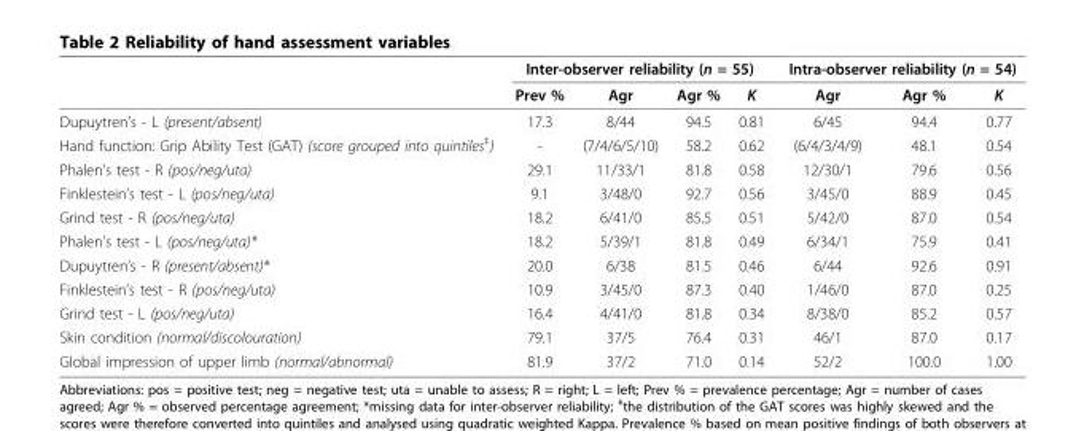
<table><thead><tr><td rowspan="2"></td><td colspan="4">Inter-observer reliability (n = 55)</td><td colspan="3">Intra-observer reliability (n = 54)</td></tr><tr><td>Prev %</td><td>Agr</td><td>Agr %</td><td>K</td><td>Agr</td><td>Agr %</td><td>K</td></tr></thead><tbody><tr><td>Dupuytren’s - L (present/absent)</td><td>17.3</td><td>8/44</td><td>94.5</td><td>0.81</td><td>6/45</td><td>94.4</td><td>0.77</td></tr><tr><td>Hand function: Grip Ability Test (GAT) (score grouped into quintiles<sup>‡</sup>)</td><td>-</td><td>(7/4/6/5/10)</td><td>58.2</td><td>0.62</td><td>(6/4/3/4/9)</td><td>48.1</td><td>0.54</td></tr><tr><td>Phalen’s test - R (pos/neg/uta)</td><td>29.1</td><td>11/33/1</td><td>81.8</td><td>0.58</td><td>12/30/1</td><td>79.6</td><td>0.56</td></tr><tr><td>Finklestein’s test - L (pos/neg/uta)</td><td>9.1</td><td>3/48/0</td><td>92.7</td><td>0.56</td><td>3/45/0</td><td>88.9</td><td>0.45</td></tr><tr><td>Grind test - R (pos/neg/uta)</td><td>18.2</td><td>6/41/0</td><td>85.5</td><td>0.51</td><td>5/42/0</td><td>87.0</td><td>0.54</td></tr><tr><td>Phalen’s test - L (pos/neg/uta)*</td><td>18.2</td><td>5/39/1</td><td>81.8</td><td>0.49</td><td>6/34/1</td><td>75.9</td><td>0.41</td></tr><tr><td>Dupuytren’s - R (present/absent)*</td><td>20.0</td><td>6/38</td><td>81.5</td><td>0.46</td><td>6/44</td><td>92.6</td><td>0.91</td></tr><tr><td>Finklestein’s test - R (pos/neg/uta)</td><td>10.9</td><td>3/45/0</td><td>87.3</td><td>0.40</td><td>1/46/0</td><td>87.0</td><td>0.25</td></tr><tr><td>Grind test - L (pos/neg/uta)</td><td>16.4</td><td>4/41/0</td><td>81.8</td><td>0.34</td><td>8/38/0</td><td>85.2</td><td>0.57</td></tr><tr><td>Skin condition (normal/discolouration)</td><td>79.1</td><td>37/5</td><td>76.4</td><td>0.31</td><td>46/1</td><td>87.0</td><td>0.17</td></tr><tr><td>Global impression of upper limb (normal/abnormal)</td><td>81.9</td><td>37/2</td><td>71.0</td><td>0.14</td><td>52/2</td><td>100.0</td><td>1.00</td></tr></tbody></table>